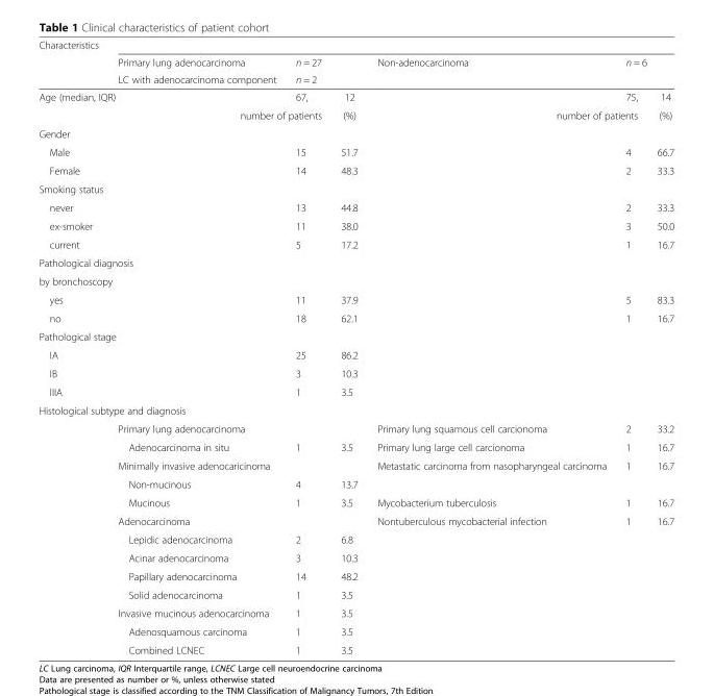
<table><thead><tr><td rowspan="3">Characteristics</td><td rowspan="3">Primary lung adenocarcinoma LC with adenocarcinoma component</td><td rowspan="3">n = 27 n = 2</td><td rowspan="3"></td><td rowspan="3">Non-adenocarcinoma</td><td></td><td></td></tr><tr><td rowspan="2" colspan="2">n = 6</td></tr><tr></tr></thead><tbody><tr><td colspan="2">Age (median, IQR)</td><td>67,</td><td>12</td><td></td><td>75,</td><td>14</td></tr><tr><td colspan="3">number of patients</td><td>(%)</td><td colspan="2">number of patients</td><td>(%)</td></tr><tr><td colspan="7">Gender</td></tr><tr><td>Male</td><td></td><td>15</td><td>51.7</td><td></td><td>4</td><td>66.7</td></tr><tr><td>Female</td><td></td><td>14</td><td>48.3</td><td></td><td>2</td><td>33.3</td></tr><tr><td colspan="7">Smoking status</td></tr><tr><td>never</td><td></td><td>13</td><td>44.8</td><td></td><td>2</td><td>33.3</td></tr><tr><td>ex-smoker</td><td></td><td>11</td><td>38.0</td><td></td><td>3</td><td>50.0</td></tr><tr><td>current</td><td></td><td>5</td><td>17.2</td><td></td><td>1</td><td>16.7</td></tr><tr><td colspan="7">Pathological diagnosis</td></tr><tr><td colspan="7">by bronchoscopy</td></tr><tr><td>yes</td><td></td><td>11</td><td>37.9</td><td></td><td>5</td><td>83.3</td></tr><tr><td>no</td><td></td><td>18</td><td>62.1</td><td></td><td>1</td><td>16.7</td></tr><tr><td colspan="7">Pathological stage</td></tr><tr><td>IA</td><td></td><td>25</td><td>86.2</td><td rowspan="3" colspan="3"></td></tr><tr><td>IB</td><td></td><td>3</td><td>10.3</td></tr><tr><td>IIIA</td><td></td><td>1</td><td>3.5</td></tr><tr><td colspan="7">Histological subtype and diagnosis</td></tr><tr><td rowspan="13"></td><td colspan="3">Primary lung adenocarcinoma</td><td>Primary lung squamous cell carcionoma</td><td>2</td><td>33.2</td></tr><tr><td>Adenocarcinoma in situ</td><td>1</td><td>3.5</td><td>Primary lung large cell carcionoma</td><td>1</td><td>16.7</td></tr><tr><td colspan="3">Minimally invasive adenocaricinoma</td><td rowspan="2">Metastatic carcinoma from nasopharyngeal carcinoma</td><td rowspan="2">1</td><td rowspan="2">16.7</td></tr><tr><td>Non-mucinous</td><td>4</td><td>13.7</td></tr><tr><td>Mucinous</td><td>1</td><td>3.5</td><td>Mycobacterium tuberculosis</td><td>1</td><td>16.7</td></tr><tr><td colspan="3">Adenocarcinoma</td><td>Nontuberculous mycobacterial infection</td><td>1</td><td>16.7</td></tr><tr><td>Lepidic adenocarcinoma</td><td>2</td><td>6.8</td><td rowspan="7" colspan="3"></td></tr><tr><td>Acinar adenocarcinoma</td><td>3</td><td>10.3</td></tr><tr><td>Papillary adenocarcinoma</td><td>14</td><td>48.2</td></tr><tr><td>Solid adenocarcinoma</td><td>1</td><td>3.5</td></tr><tr><td>Invasive mucinous adenocarcinoma</td><td>1</td><td>3.5</td></tr><tr><td>Adenosquamous carcinoma</td><td>1</td><td>3.5</td></tr><tr><td>Combined LCNEC</td><td>1</td><td>3.5</td></tr></tbody></table>